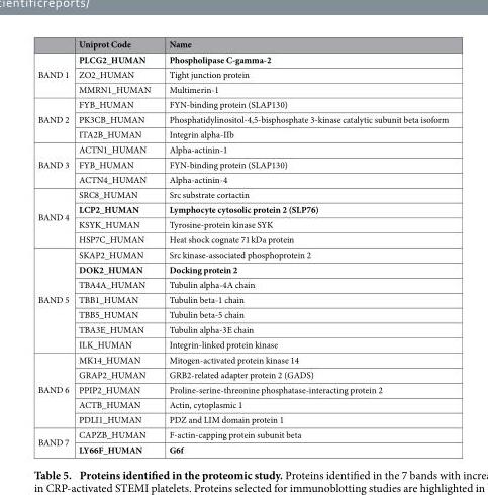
<table><thead><tr><td></td><td>Uniprot Code</td><td>Name</td></tr></thead><tbody><tr><td rowspan="3">BAND 1</td><td>PLCG2_HUMAN</td><td>Phospholipase C-gamma-2</td></tr><tr><td>ZO2_HUMAN</td><td>Tight junction protein</td></tr><tr><td>MMRN1_HUMAN</td><td>Multimerin-1</td></tr><tr><td rowspan="3">BAND 2</td><td>FYB_HUMAN</td><td>FYN-binding protein (SLAP130)</td></tr><tr><td>PK3CB_HUMAN</td><td>Phosphatidylinositol-4,5-bisphosphate 3-kinase catalytic subunit beta isoform</td></tr><tr><td>ITA2B_HUMAN</td><td>Integrin alpha-IIb</td></tr><tr><td rowspan="3">BAND 3</td><td>ACTN1_HUMAN</td><td>Alpha-actinin-1</td></tr><tr><td>FYB_HUMAN</td><td>FYN-binding protein (SLAP130)</td></tr><tr><td>ACTN4_HUMAN</td><td>Alpha-actinin-4</td></tr><tr><td rowspan="4">BAND 4</td><td>SRC8_HUMAN</td><td>Src substrate cortactin</td></tr><tr><td>LCP2_HUMAN</td><td>Lymphocyte cytosolic protein 2 (SLP76)</td></tr><tr><td>KSYK_HUMAN</td><td>Tyrosine-protein kinase SYK</td></tr><tr><td>HSP7C_HUMAN</td><td>Heat shock cognate 71 kDa protein</td></tr><tr><td rowspan="7">BAND 5</td><td>SKAP2_HUMAN</td><td>Src kinase-associated phosphoprotein 2</td></tr><tr><td>DOK2_HUMAN</td><td>Docking protein 2</td></tr><tr><td>TBA4A_HUMAN</td><td>Tubulin alpha-4A chain</td></tr><tr><td>TBB1_HUMAN</td><td>Tubulin beta-1 chain</td></tr><tr><td>TBB5_HUMAN</td><td>Tubulin beta-5 chain</td></tr><tr><td>TBA3E_HUMAN</td><td>Tubulin alpha-3E chain</td></tr><tr><td>ILK_HUMAN</td><td>Integrin-linked protein kinase</td></tr><tr><td rowspan="5">BAND 6</td><td>MK14_HUMAN</td><td>Mitogen-activated protein kinase 14</td></tr><tr><td>GRAP2_HUMAN</td><td>GRB2-related adapter protein 2 (GADS)</td></tr><tr><td>PPIP2_HUMAN</td><td>Proline-serine-threonine phosphatase-interacting protein 2</td></tr><tr><td>ACTB_HUMAN</td><td>Actin, cytoplasmic 1</td></tr><tr><td>PDLI1_HUMAN</td><td>PDZ and LIM domain protein 1</td></tr><tr><td rowspan="2">BAND 7</td><td>CAPZB_HUMAN</td><td>F-actin-capping protein subunit beta</td></tr><tr><td>LY66F_HUMAN</td><td>G6f</td></tr></tbody></table>